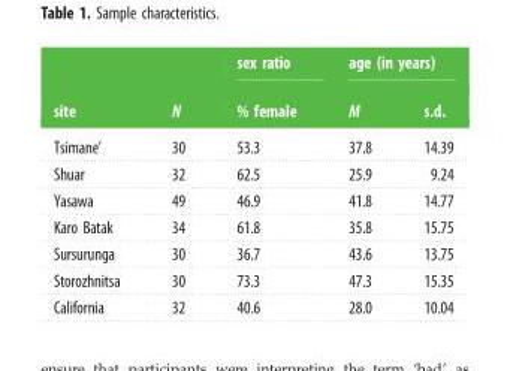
<table><thead><tr><td rowspan="2">site</td><td rowspan="2">N</td><td rowspan="2">sex ratio % female</td><td colspan="2">age (in years)</td></tr><tr><td>M</td><td>s.d.</td></tr></thead><tbody><tr><td>Tsimane’</td><td>30</td><td>53.3</td><td>37.8</td><td>14.39</td></tr><tr><td>Shuar</td><td>32</td><td>62.5</td><td>25.9</td><td>9.24</td></tr><tr><td>Yasawa</td><td>49</td><td>46.9</td><td>41.8</td><td>14.77</td></tr><tr><td>Karo Batak</td><td>34</td><td>61.8</td><td>35.8</td><td>15.75</td></tr><tr><td>Sursurunga</td><td>30</td><td>36.7</td><td>43.6</td><td>13.75</td></tr><tr><td>Storozhnitsa</td><td>30</td><td>73.3</td><td>47.3</td><td>15.35</td></tr><tr><td>California</td><td>32</td><td>40.6</td><td>28.0</td><td>10.04</td></tr></tbody></table>